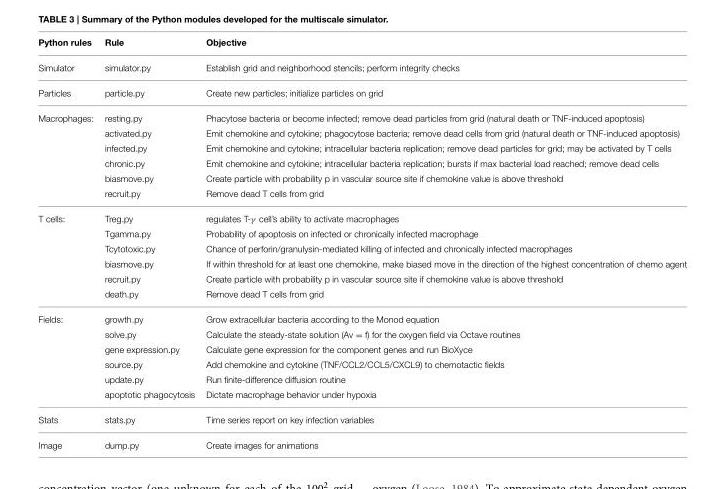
<table><thead><tr><td>Python rules</td><td>Rule</td><td>Objective</td></tr></thead><tbody><tr><td>Simulator</td><td>simulator.py</td><td>Establish grid and neighborhood stencils; perform integrity checks</td></tr><tr><td>Particles</td><td>particle.py</td><td>Create new particles; initialize particles on grid</td></tr><tr><td rowspan="6">Macrophages:</td><td>resting.py</td><td>Phacytose bacteria or become infected; remove dead particles from grid (natural death or TNF-induced apoptosis)</td></tr><tr><td>activated.py</td><td>Emit chemokine and cytokine; phagocytose bacteria; remove dead cells from grid (natural death or TNF-induced apoptosis)</td></tr><tr><td>infected.py</td><td>Emit chemokine and cytokine; intracellular bacteria replication; remove dead particles for grid; may be activated by T cells</td></tr><tr><td>chronic.py</td><td>Emit chemokine and cytokine; intracellular bacteria replication; bursts if max bacterial load reached; remove dead cells</td></tr><tr><td>biasmove.py</td><td>Create particle with probability p in vascular source site if chemokine value is above threshold</td></tr><tr><td>recruit.py</td><td>Remove dead T cells from grid</td></tr><tr><td rowspan="6">T cells:</td><td>Treg.py</td><td>regulates T-γ cell’s ability to activate macrophages</td></tr><tr><td>Tgamma.py</td><td>Probability of apoptosis on infected or chronically infected macrophage</td></tr><tr><td>Tcytotoxic.py</td><td>Chance of perforin/granulysin-mediated killing of infected and chronically infected macrophages</td></tr><tr><td>biasmove.py</td><td>If within threshold for at least one chemokine, make biased move in the direction of the highest concentration of chemo agent</td></tr><tr><td>recruit.py</td><td>Create particle with probability p in vascular source site if chemokine value is above threshold</td></tr><tr><td>death.py</td><td>Remove dead T cells from grid</td></tr><tr><td rowspan="6">Fields:</td><td>growth.py</td><td>Grow extracellular bacteria according to the Monod equation</td></tr><tr><td>solve.py</td><td>Calculate the steady-state solution (Av = f) for the oxygen field via Octave routines</td></tr><tr><td>gene expression.py</td><td>Calculate gene expression for the component genes and run BioXyce</td></tr><tr><td>source.py</td><td>Add chemokine and cytokine (TNF/CCL2/CCL5/CXCL9) to chemotactic fields</td></tr><tr><td>update.py</td><td>Run finite-difference diffusion routine</td></tr><tr><td>apoptotic phagocytosis</td><td>Dictate macrophage behavior under hypoxia</td></tr><tr><td>Stats</td><td>stats.py</td><td>Time series report on key infection variables</td></tr><tr><td>Image</td><td>dump.py</td><td>Create images for animations</td></tr></tbody></table>